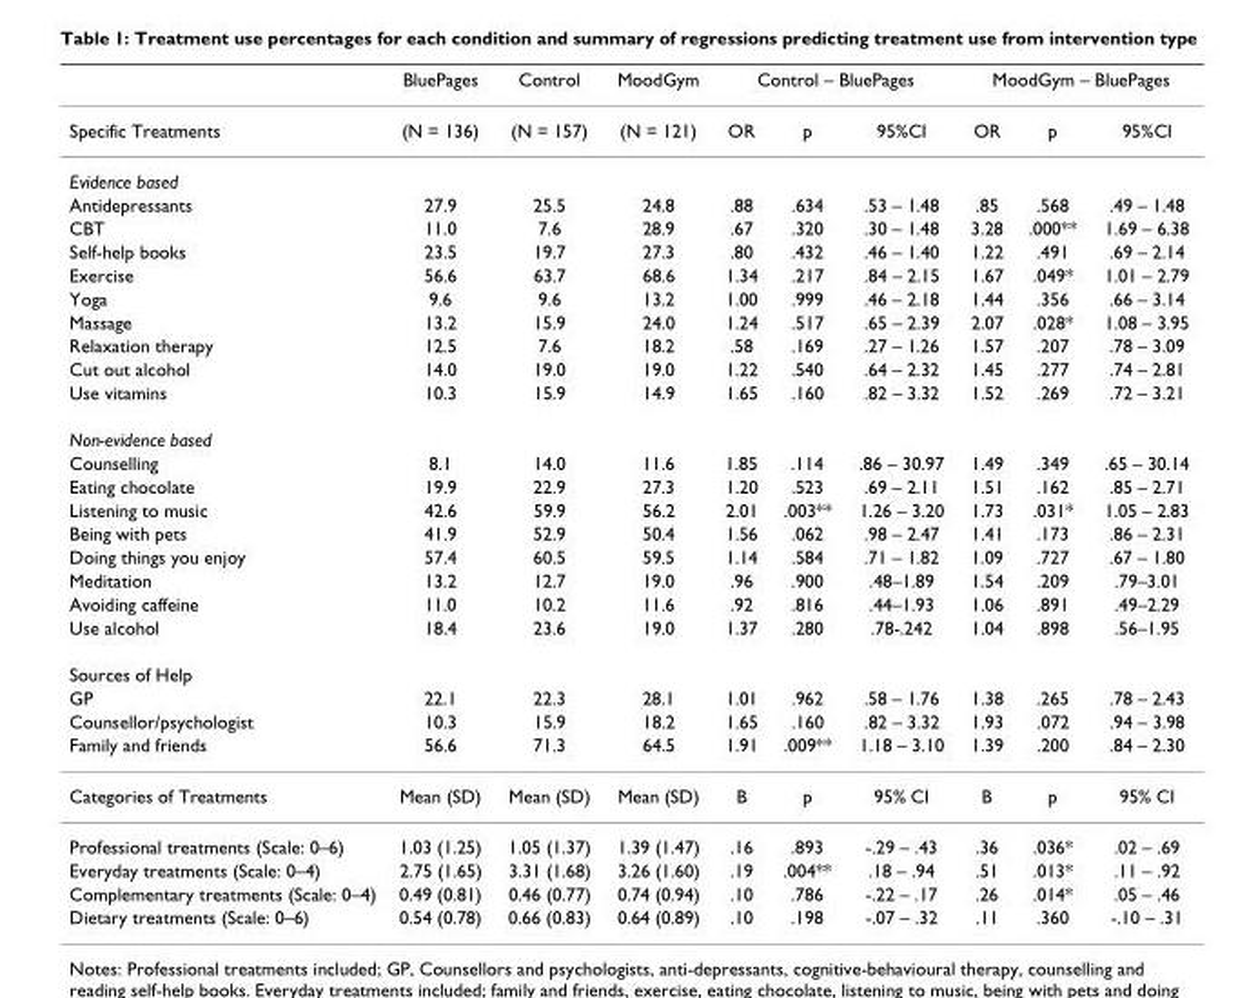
<table><thead><tr><td rowspan="2">Specific Treatments</td><td rowspan="2">BluePages (N = 136)</td><td rowspan="2">Control (N = 157)</td><td rowspan="2">MoodGym (N = 121)</td><td colspan="3">Control – BluePages</td><td colspan="3">MoodGym – BluePages</td></tr><tr><td>OR</td><td>p</td><td>95%CI</td><td>OR</td><td>p</td><td>95%CI</td></tr></thead><tbody><tr><td colspan="10">Evidence based</td></tr><tr><td>Antidepressants</td><td>27.9</td><td>25.5</td><td>24.8</td><td>.88</td><td>.634</td><td>.53 – 1.48</td><td>.85</td><td>.568</td><td>.49 – 1.48</td></tr><tr><td>CBT</td><td>11.0</td><td>7.6</td><td>28.9</td><td>.67</td><td>.320</td><td>.30 – 1.48</td><td>3.28</td><td>.000**</td><td>1.69 – 6.38</td></tr><tr><td>Self-help books</td><td>23.5</td><td>19.7</td><td>27.3</td><td>.80</td><td>.432</td><td>.46 – 1.40</td><td>1.22</td><td>.491</td><td>.69 – 2.14</td></tr><tr><td>Exercise</td><td>56.6</td><td>63.7</td><td>68.6</td><td>1.34</td><td>.217</td><td>.84 – 2.15</td><td>1.67</td><td>.049*</td><td>1.01 – 2.79</td></tr><tr><td>Yoga</td><td>9.6</td><td>9.6</td><td>13.2</td><td>1.00</td><td>.999</td><td>.46 – 2.18</td><td>1.44</td><td>.356</td><td>.66 – 3.14</td></tr><tr><td>Massage</td><td>13.2</td><td>15.9</td><td>24.0</td><td>1.24</td><td>.517</td><td>.65 – 2.39</td><td>2.07</td><td>.028*</td><td>1.08 – 3.95</td></tr><tr><td>Relaxation therapy</td><td>12.5</td><td>7.6</td><td>18.2</td><td>.58</td><td>.169</td><td>.27 – 1.26</td><td>1.57</td><td>.207</td><td>.78 – 3.09</td></tr><tr><td>Cut out alcohol</td><td>14.0</td><td>19.0</td><td>19.0</td><td>1.22</td><td>.540</td><td>.64 – 2.32</td><td>1.45</td><td>.277</td><td>.74 – 2.81</td></tr><tr><td>Use vitamins</td><td>10.3</td><td>15.9</td><td>14.9</td><td>1.65</td><td>.160</td><td>.82 – 3.32</td><td>1.52</td><td>.269</td><td>.72 – 3.21</td></tr><tr><td colspan="10">Non-evidence based</td></tr><tr><td>Counselling</td><td>8.1</td><td>14.0</td><td>11.6</td><td>1.85</td><td>.114</td><td>.86 – 30.97</td><td>1.49</td><td>.349</td><td>.65 – 30.14</td></tr><tr><td>Eating chocolate</td><td>19.9</td><td>22.9</td><td>27.3</td><td>1.20</td><td>.523</td><td>.69 – 2.11</td><td>1.51</td><td>.162</td><td>.85 – 2.71</td></tr><tr><td>Listening to music</td><td>42.6</td><td>59.9</td><td>56.2</td><td>2.01</td><td>.003**</td><td>1.26 – 3.20</td><td>1.73</td><td>.031*</td><td>1.05 – 2.83</td></tr><tr><td>Being with pets</td><td>41.9</td><td>52.9</td><td>50.4</td><td>1.56</td><td>.062</td><td>.98 – 2.47</td><td>1.41</td><td>.173</td><td>.86 – 2.31</td></tr><tr><td>Doing things you enjoy</td><td>57.4</td><td>60.5</td><td>59.5</td><td>1.14</td><td>.584</td><td>.71 – 1.82</td><td>1.09</td><td>.727</td><td>.67 – 1.80</td></tr><tr><td>Meditation</td><td>13.2</td><td>12.7</td><td>19.0</td><td>.96</td><td>.900</td><td>.48–1.89</td><td>1.54</td><td>.209</td><td>.79–3.01</td></tr><tr><td>Avoiding caffeine</td><td>11.0</td><td>10.2</td><td>11.6</td><td>.92</td><td>.816</td><td>.44–1.93</td><td>1.06</td><td>.891</td><td>.49–2.29</td></tr><tr><td>Use alcohol</td><td>18.4</td><td>23.6</td><td>19.0</td><td>1.37</td><td>.280</td><td>.78-.242</td><td>1.04</td><td>.898</td><td>.56–1.95</td></tr><tr><td colspan="10">Sources of Help</td></tr><tr><td>GP</td><td>22.1</td><td>22.3</td><td>28.1</td><td>1.01</td><td>.962</td><td>.58 – 1.76</td><td>1.38</td><td>.265</td><td>.78 – 2.43</td></tr><tr><td>Counsellor/psychologist</td><td>10.3</td><td>15.9</td><td>18.2</td><td>1.65</td><td>.160</td><td>.82 – 3.32</td><td>1.93</td><td>.072</td><td>.94 – 3.98</td></tr><tr><td>Family and friends</td><td>56.6</td><td>71.3</td><td>64.5</td><td>1.91</td><td>.009**</td><td>1.18 – 3.10</td><td>1.39</td><td>.200</td><td>.84 – 2.30</td></tr><tr><td>Categories of Treatments</td><td>Mean (SD)</td><td>Mean (SD)</td><td>Mean (SD)</td><td>B</td><td>p</td><td>95% CI</td><td>B</td><td>p</td><td>95% CI</td></tr><tr><td>Professional treatments (Scale: 0–6)</td><td>1.03 (1.25)</td><td>1.05 (1.37)</td><td>1.39 (1.47)</td><td>.16</td><td>.893</td><td>-.29 – .43</td><td>.36</td><td>.036*</td><td>.02 – .69</td></tr><tr><td>Everyday treatments (Scale: 0–4)</td><td>2.75 (1.65)</td><td>3.31 (1.68)</td><td>3.26 (1.60)</td><td>.19</td><td>.004**</td><td>.18 – .94</td><td>.51</td><td>.013*</td><td>.11 – .92</td></tr><tr><td>Complementary treatments (Scale: 0–4)</td><td>0.49 (0.81)</td><td>0.46 (0.77)</td><td>0.74 (0.94)</td><td>.10</td><td>.786</td><td>-.22 – .17</td><td>.26</td><td>.014*</td><td>.05 – .46</td></tr><tr><td>Dietary treatments (Scale: 0–6)</td><td>0.54 (0.78)</td><td>0.66 (0.83)</td><td>0.64 (0.89)</td><td>.10</td><td>.198</td><td>-.07 – .32</td><td>.11</td><td>.360</td><td>-.10 – .31</td></tr></tbody></table>